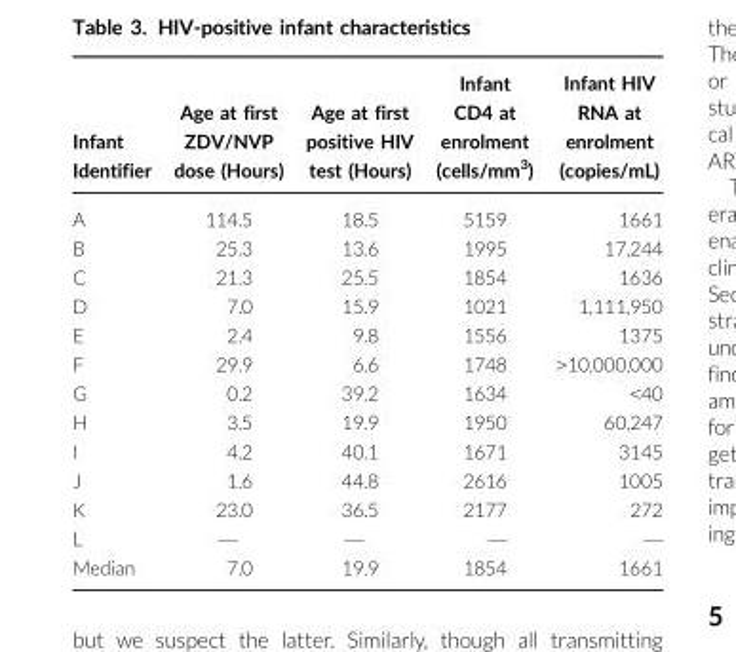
<table><thead><tr><td>Infant Identifier</td><td>Age at first ZDV/NVP dose (Hours)</td><td>Age at first positive HIV test (Hours)</td><td>Infant CD4 at enrolment (cells/mm<sup>3</sup>)</td><td>Infant HIV RNA at enrolment (copies/mL)</td></tr></thead><tbody><tr><td>A</td><td>114.5</td><td>18.5</td><td>5159</td><td>1661</td></tr><tr><td>B</td><td>25.3</td><td>13.6</td><td>1995</td><td>17,244</td></tr><tr><td>C</td><td>21.3</td><td>25.5</td><td>1854</td><td>1636</td></tr><tr><td>D</td><td>7.0</td><td>15.9</td><td>1021</td><td>1,111,950</td></tr><tr><td>E</td><td>2.4</td><td>9.8</td><td>1556</td><td>1375</td></tr><tr><td>F</td><td>29.9</td><td>6.6</td><td>1748</td><td>&gt;10,000,000</td></tr><tr><td>G</td><td>0.2</td><td>39.2</td><td>1634</td><td>&lt;40</td></tr><tr><td>H</td><td>3.5</td><td>19.9</td><td>1950</td><td>60,247</td></tr><tr><td>I</td><td>4.2</td><td>40.1</td><td>1671</td><td>3145</td></tr><tr><td>J</td><td>1.6</td><td>44.8</td><td>2616</td><td>1005</td></tr><tr><td>K</td><td>23.0</td><td>36.5</td><td>2177</td><td>272</td></tr><tr><td>L</td><td>—</td><td>—</td><td>—</td><td>—</td></tr><tr><td>Median</td><td>7.0</td><td>19.9</td><td>1854</td><td>1661</td></tr></tbody></table>